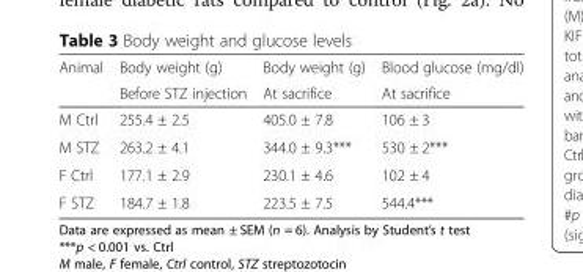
<table><thead><tr><td rowspan="2">Animal</td><td rowspan="2">Body weight (g) Before STZ injection</td><td rowspan="2">Body weight (g) At sacrifice</td><td rowspan="2">Blood glucose (mg/dl) At sacrifice</td></tr><tr></tr></thead><tbody><tr><td>M Ctrl</td><td>255.4 ± 2.5</td><td>405.0 ± 7.8</td><td>106 ± 3</td></tr><tr><td>M STZ</td><td>263.2 ± 4.1</td><td>344.0 ± 9.3***</td><td>530 ± 2***</td></tr><tr><td>F Ctrl</td><td>177.1 ± 2.9</td><td>230.1 ± 4.6</td><td>102 ± 4</td></tr><tr><td>F STZ</td><td>184.7 ± 1.8</td><td>223.5 ± 7.5</td><td>544.4***</td></tr></tbody></table>